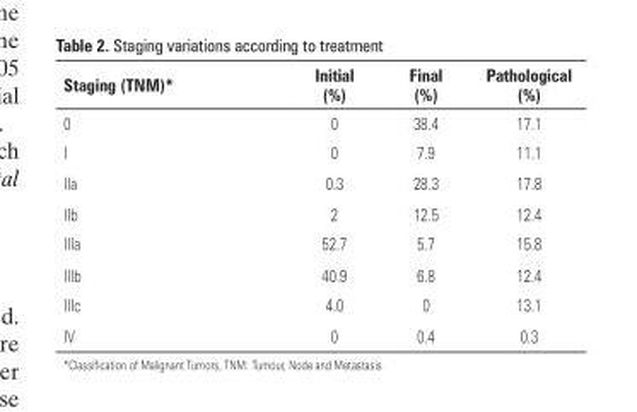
<table><thead><tr><td>Staging (TNM)*</td><td>Initial (%)</td><td>Final (%)</td><td>Pathological (%)</td></tr></thead><tbody><tr><td>0</td><td>0</td><td>38.4</td><td>17.1</td></tr><tr><td>I</td><td>0</td><td>7.9</td><td>11.1</td></tr><tr><td>IIa</td><td>0.3</td><td>28.3</td><td>17.8</td></tr><tr><td>IIb</td><td>2</td><td>12.5</td><td>12.4</td></tr><tr><td>IIIa</td><td>52.7</td><td>5.7</td><td>15.8</td></tr><tr><td>IIIb</td><td>40.9</td><td>6.8</td><td>12.4</td></tr><tr><td>IIIc</td><td>4.0</td><td>0</td><td>13.1</td></tr><tr><td>IV</td><td>0</td><td>0.4</td><td>0.3</td></tr></tbody></table>